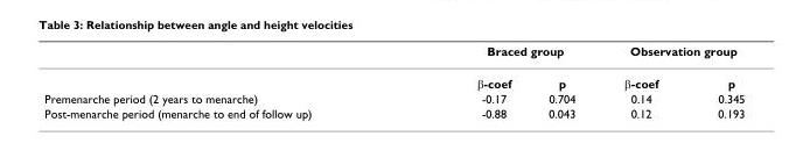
<table><thead><tr><td rowspan="2"></td><td colspan="2">Braced group</td><td colspan="2">Observation group</td></tr><tr><td>β-coef</td><td>p</td><td>β-coef</td><td>p</td></tr></thead><tbody><tr><td>Premenarche period (2 years to menarche)</td><td>-0.17</td><td>0.704</td><td>0.14</td><td>0.345</td></tr><tr><td>Post-menarche period (menarche to end of follow up)</td><td>-0.88</td><td>0.043</td><td>0.12</td><td>0.193</td></tr></tbody></table>